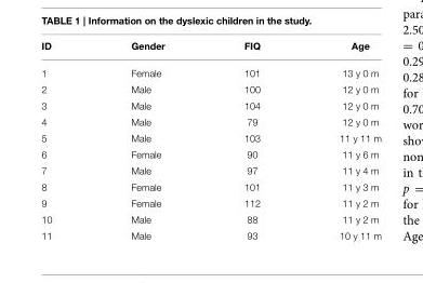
<table><thead><tr><td>ID</td><td>Gender</td><td>FIQ</td><td>Age</td></tr></thead><tbody><tr><td>1</td><td>Female</td><td>101</td><td>13 y 0 m</td></tr><tr><td>2</td><td>Male</td><td>100</td><td>12 y 0 m</td></tr><tr><td>3</td><td>Male</td><td>104</td><td>12 y 0 m</td></tr><tr><td>4</td><td>Male</td><td>79</td><td>12 y 0 m</td></tr><tr><td>5</td><td>Male</td><td>103</td><td>11 y 11 m</td></tr><tr><td>6</td><td>Female</td><td>90</td><td>11 y 6 m</td></tr><tr><td>7</td><td>Male</td><td>97</td><td>11 y 4 m</td></tr><tr><td>8</td><td>Female</td><td>101</td><td>11 y 3 m</td></tr><tr><td>9</td><td>Female</td><td>112</td><td>11 y 2 m</td></tr><tr><td>10</td><td>Male</td><td>88</td><td>11 y 2 m</td></tr><tr><td>11</td><td>Male</td><td>93</td><td>10 y 11 m</td></tr></tbody></table>